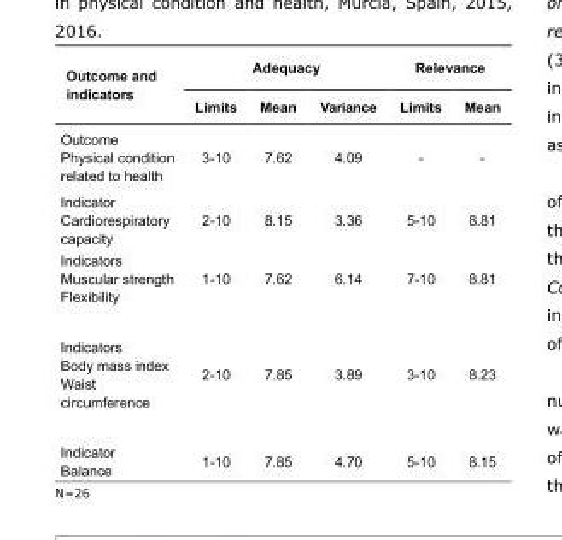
<table><tbody><tr><td rowspan="2">Outcome and indicators</td><td colspan="3">Adequacy</td><td colspan="2">Relevance</td></tr><tr><td>Limits</td><td>Mean</td><td>Variance</td><td>Limits</td><td>Mean</td></tr><tr><td>Outcome Physical condition related to health</td><td>3-10</td><td>7.62</td><td>4.09</td><td>-</td><td>-</td></tr><tr><td>Indicator Cardiorespiratory capacity</td><td>2-10</td><td>8.15</td><td>3.36</td><td>5-10</td><td>8.81</td></tr><tr><td>Indicators Muscular strength Flexibility</td><td>1-10</td><td>7.62</td><td>6.14</td><td>7-10</td><td>8.81</td></tr><tr><td>Indicators Body mass index Waist circumference</td><td>2-10</td><td>7.85</td><td>3.89</td><td>3-10</td><td>8.23</td></tr><tr><td>Indicator Balance</td><td>1-10</td><td>7.85</td><td>4.70</td><td>5-10</td><td>8.15</td></tr></tbody></table>